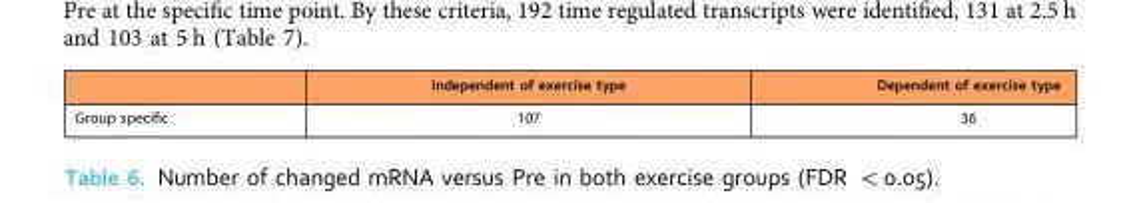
<table><thead><tr><td></td><td>Independent of exercise type</td><td>Dependent of exercise type</td></tr></thead><tbody><tr><td>Group specific</td><td>107</td><td>36</td></tr></tbody></table>